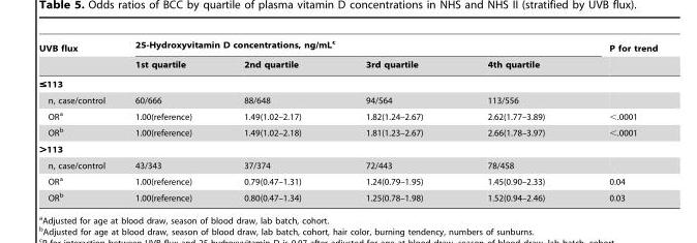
<table><thead><tr><td rowspan="2">UVB flux</td><td colspan="4">25-Hydroxyvitamin D concentrations, ng/mL<sup>c</sup></td><td rowspan="2">P for trend</td></tr><tr><td>1st quartile</td><td>2nd quartile</td><td>3rd quartile</td><td>4th quartile</td></tr></thead><tbody><tr><td colspan="6">≤113</td></tr><tr><td>n, case/control</td><td>60/666</td><td>88/648</td><td>94/564</td><td>113/556</td><td></td></tr><tr><td>OR<sup>a</sup></td><td>1.00(reference)</td><td>1.49(1.02–2.17)</td><td>1.82(1.24–2.67)</td><td>2.62(1.77–3.89)</td><td>&lt;.0001</td></tr><tr><td>OR<sup>b</sup></td><td>1.00(reference)</td><td>1.49(1.02–2.18)</td><td>1.81(1.23–2.67)</td><td>2.66(1.78–3.97)</td><td>&lt;.0001</td></tr><tr><td colspan="6">&gt;113</td></tr><tr><td>n, case/control</td><td>43/343</td><td>37/374</td><td>72/443</td><td>78/458</td><td></td></tr><tr><td>OR<sup>a</sup></td><td>1.00(reference)</td><td>0.79(0.47–1.31)</td><td>1.24(0.79–1.95)</td><td>1.45(0.90–2.33)</td><td>0.04</td></tr><tr><td>OR<sup>b</sup></td><td>1.00(reference)</td><td>0.80(0.47–1.34)</td><td>1.25(0.78–1.98)</td><td>1.52(0.94–2.46)</td><td>0.03</td></tr></tbody></table>